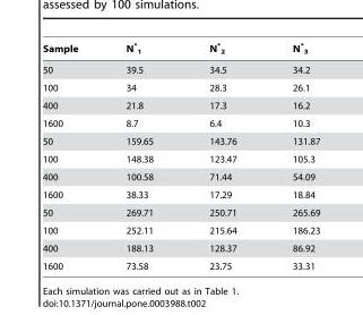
<table><thead><tr><td>Sample</td><td>N* <sub>1</sub></td><td>N* <sub>2</sub></td><td>N* <sub>3</sub></td></tr></thead><tbody><tr><td>50</td><td>39.5</td><td>34.5</td><td>34.2</td></tr><tr><td>100</td><td>34</td><td>28.3</td><td>26.1</td></tr><tr><td>400</td><td>21.8</td><td>17.3</td><td>16.2</td></tr><tr><td>1600</td><td>8.7</td><td>6.4</td><td>10.3</td></tr><tr><td>50</td><td>159.65</td><td>143.76</td><td>131.87</td></tr><tr><td>100</td><td>148.38</td><td>123.47</td><td>105.3</td></tr><tr><td>400</td><td>100.58</td><td>71.44</td><td>54.09</td></tr><tr><td>1600</td><td>38.33</td><td>17.29</td><td>18.84</td></tr><tr><td>50</td><td>269.71</td><td>250.71</td><td>265.69</td></tr><tr><td>100</td><td>252.11</td><td>215.64</td><td>186.23</td></tr><tr><td>400</td><td>188.13</td><td>128.37</td><td>86.92</td></tr><tr><td>1600</td><td>73.58</td><td>23.75</td><td>33.31</td></tr></tbody></table>